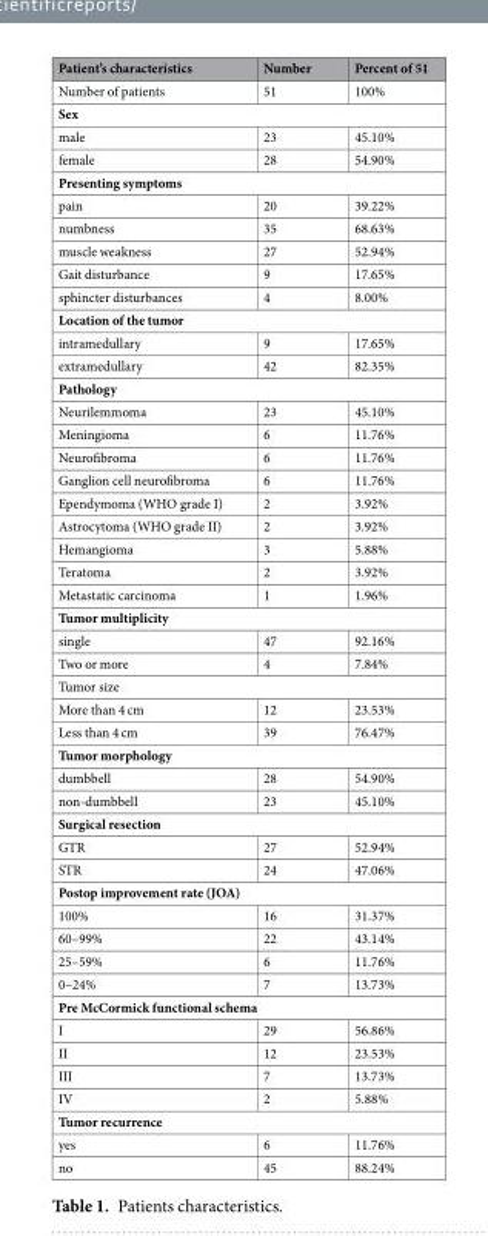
<table><thead><tr><td>Patient’s characteristics</td><td>Number</td><td>Percent of 51</td></tr></thead><tbody><tr><td>Number of patients</td><td>51</td><td>100%</td></tr><tr><td colspan="3">Sex</td></tr><tr><td>male</td><td>23</td><td>45.10%</td></tr><tr><td>female</td><td>28</td><td>54.90%</td></tr><tr><td colspan="3">Presenting symptoms</td></tr><tr><td>pain</td><td>20</td><td>39.22%</td></tr><tr><td>numbness</td><td>35</td><td>68.63%</td></tr><tr><td>muscle weakness</td><td>27</td><td>52.94%</td></tr><tr><td>Gait disturbance</td><td>9</td><td>17.65%</td></tr><tr><td>sphincter disturbances</td><td>4</td><td>8.00%</td></tr><tr><td colspan="3">Location of the tumor</td></tr><tr><td>intramedullary</td><td>9</td><td>17.65%</td></tr><tr><td>extramedullary</td><td>42</td><td>82.35%</td></tr><tr><td colspan="3">Pathology</td></tr><tr><td>Neurilemmoma</td><td>23</td><td>45.10%</td></tr><tr><td>Meningioma</td><td>6</td><td>11.76%</td></tr><tr><td>Neurofibroma</td><td>6</td><td>11.76%</td></tr><tr><td>Ganglion cell neurofibroma</td><td>6</td><td>11.76%</td></tr><tr><td>Ependymoma (WHO grade I)</td><td>2</td><td>3.92%</td></tr><tr><td>Astrocytoma (WHO grade II)</td><td>2</td><td>3.92%</td></tr><tr><td>Hemangioma</td><td>3</td><td>5.88%</td></tr><tr><td>Teratoma</td><td>2</td><td>3.92%</td></tr><tr><td>Metastatic carcinoma</td><td>1</td><td>1.96%</td></tr><tr><td colspan="3">Tumor multiplicity</td></tr><tr><td>single</td><td>47</td><td>92.16%</td></tr><tr><td>Two or more</td><td>4</td><td>7.84%</td></tr><tr><td colspan="3">Tumor size</td></tr><tr><td>More than 4 cm</td><td>12</td><td>23.53%</td></tr><tr><td>Less than 4 cm</td><td>39</td><td>76.47%</td></tr><tr><td colspan="3">Tumor morphology</td></tr><tr><td>dumbbell</td><td>28</td><td>54.90%</td></tr><tr><td>non-dumbbell</td><td>23</td><td>45.10%</td></tr><tr><td colspan="3">Surgical resection</td></tr><tr><td>GTR</td><td>27</td><td>52.94%</td></tr><tr><td>STR</td><td>24</td><td>47.06%</td></tr><tr><td colspan="3">Postop improvement rate (JOA)</td></tr><tr><td>100%</td><td>16</td><td>31.37%</td></tr><tr><td>60–99%</td><td>22</td><td>43.14%</td></tr><tr><td>25–59%</td><td>6</td><td>11.76%</td></tr><tr><td>0–24%</td><td>7</td><td>13.73%</td></tr><tr><td colspan="3">Pre McCormick functional schema</td></tr><tr><td>I</td><td>29</td><td>56.86%</td></tr><tr><td>II</td><td>12</td><td>23.53%</td></tr><tr><td>III</td><td>7</td><td>13.73%</td></tr><tr><td>IV</td><td>2</td><td>5.88%</td></tr><tr><td colspan="3">Tumor recurrence</td></tr><tr><td>yes</td><td>6</td><td>11.76%</td></tr><tr><td>no</td><td>45</td><td>88.24%</td></tr></tbody></table>